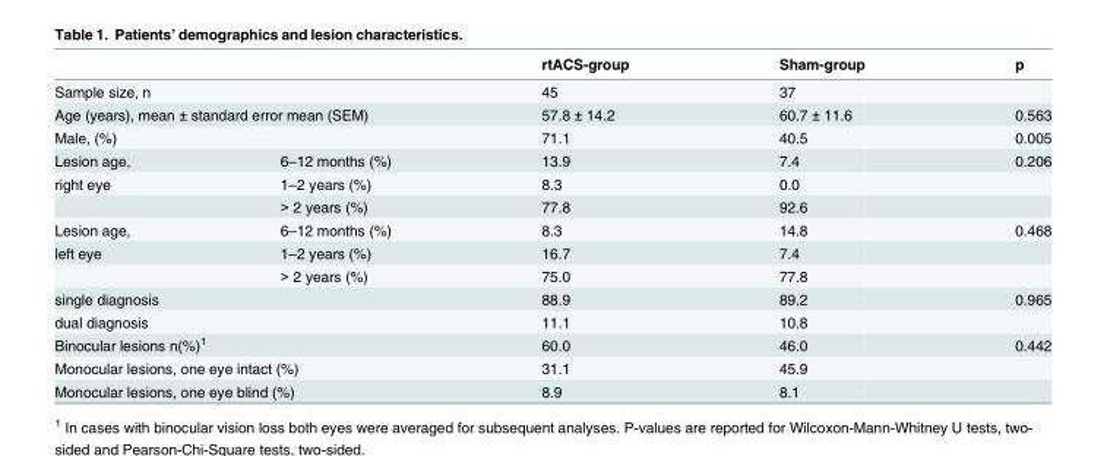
<table><thead><tr><td></td><td></td><td>rtACS-group</td><td>Sham-group</td><td>p</td></tr></thead><tbody><tr><td colspan="2">Sample size, n</td><td>45</td><td>37</td><td></td></tr><tr><td colspan="2">Age (years), mean ± standard error mean (SEM)</td><td>57.8 ± 14.2</td><td>60.7 ± 11.6</td><td>0.563</td></tr><tr><td colspan="2">Male, (%)</td><td>71.1</td><td>40.5</td><td>0.005</td></tr><tr><td>Lesion age,</td><td>6–12 months (%)</td><td>13.9</td><td>7.4</td><td>0.206</td></tr><tr><td rowspan="2">right eye</td><td>1–2 years (%)</td><td>8.3</td><td>0.0</td><td></td></tr><tr><td>&gt; 2 years (%)</td><td>77.8</td><td>92.6</td><td></td></tr><tr><td>Lesion age,</td><td>6–12 months (%)</td><td>8.3</td><td>14.8</td><td>0.468</td></tr><tr><td rowspan="2">left eye</td><td>1–2 years (%)</td><td>16.7</td><td>7.4</td><td></td></tr><tr><td>&gt; 2 years (%)</td><td>75.0</td><td>77.8</td><td></td></tr><tr><td colspan="2">single diagnosis</td><td>88.9</td><td>89.2</td><td>0.965</td></tr><tr><td colspan="2">dual diagnosis</td><td>11.1</td><td>10.8</td><td></td></tr><tr><td colspan="2">Binocular lesions n(%)<sup>1</sup></td><td>60.0</td><td>46.0</td><td>0.442</td></tr><tr><td colspan="2">Monocular lesions, one eye intact (%)</td><td>31.1</td><td>45.9</td><td></td></tr><tr><td colspan="2">Monocular lesions, one eye blind (%)</td><td>8.9</td><td>8.1</td><td></td></tr></tbody></table>